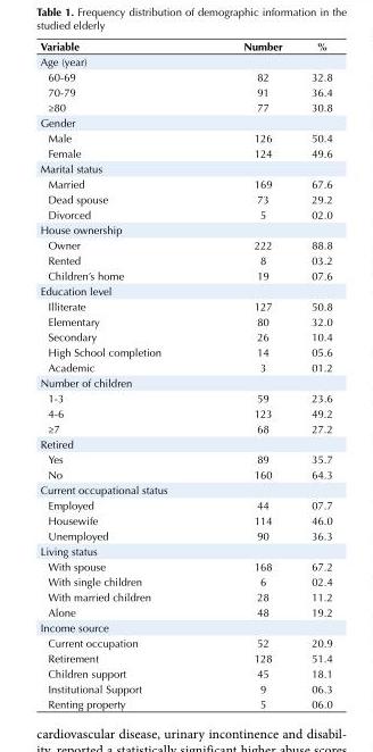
<table><tbody><tr><td>Variable</td><td>Number</td><td>%</td></tr><tr><td colspan="3">Age (year)</td></tr><tr><td>60-69</td><td>82</td><td>32.8</td></tr><tr><td>70-79</td><td>91</td><td>36.4</td></tr><tr><td>≥80</td><td>77</td><td>30.8</td></tr><tr><td colspan="3">Gender</td></tr><tr><td>Male</td><td>126</td><td>50.4</td></tr><tr><td>Female</td><td>124</td><td>49.6</td></tr><tr><td colspan="3">Marital status</td></tr><tr><td>Married</td><td>169</td><td>67.6</td></tr><tr><td>Dead spouse</td><td>73</td><td>29.2</td></tr><tr><td>Divorced</td><td>5</td><td>02.0</td></tr><tr><td colspan="3">House ownership</td></tr><tr><td>Owner</td><td>222</td><td>88.8</td></tr><tr><td>Rented</td><td>8</td><td>03.2</td></tr><tr><td>Children’s home</td><td>19</td><td>07.6</td></tr><tr><td colspan="3">Education level</td></tr><tr><td>Illiterate</td><td>127</td><td>50.8</td></tr><tr><td>Elementary</td><td>80</td><td>32.0</td></tr><tr><td>Secondary</td><td>26</td><td>10.4</td></tr><tr><td>High School completion</td><td>14</td><td>05.6</td></tr><tr><td>Academic</td><td>3</td><td>01.2</td></tr><tr><td colspan="3">Number of children</td></tr><tr><td>1-3</td><td>59</td><td>23.6</td></tr><tr><td>4-6</td><td>123</td><td>49.2</td></tr><tr><td>≥7</td><td>68</td><td>27.2</td></tr><tr><td colspan="3">Retired</td></tr><tr><td>Yes</td><td>89</td><td>35.7</td></tr><tr><td>No</td><td>160</td><td>64.3</td></tr><tr><td colspan="3">Current occupational status</td></tr><tr><td>Employed</td><td>44</td><td>07.7</td></tr><tr><td>Housewife</td><td>114</td><td>46.0</td></tr><tr><td>Unemployed</td><td>90</td><td>36.3</td></tr><tr><td colspan="3">Living status</td></tr><tr><td>With spouse</td><td>168</td><td>67.2</td></tr><tr><td>With single children</td><td>6</td><td>02.4</td></tr><tr><td>With married children</td><td>28</td><td>11.2</td></tr><tr><td>Alone</td><td>48</td><td>19.2</td></tr><tr><td colspan="3">Income source</td></tr><tr><td>Current occupation</td><td>52</td><td>20.9</td></tr><tr><td>Retirement</td><td>128</td><td>51.4</td></tr><tr><td>Children support</td><td>45</td><td>18.1</td></tr><tr><td>Institutional Support</td><td>9</td><td>06.3</td></tr><tr><td>Renting property</td><td>5</td><td>06.0</td></tr></tbody></table>